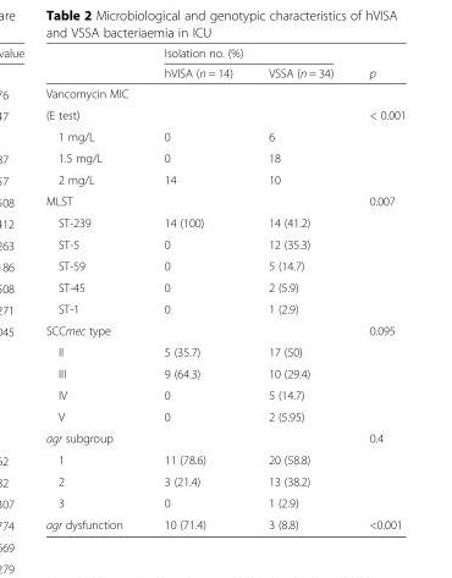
<table><thead><tr><td rowspan="2"></td><td colspan="2">Isolation no. (%)</td><td rowspan="2">p</td></tr><tr><td>hVISA (n = 14)</td><td>VSSA (n = 34)</td></tr></thead><tbody><tr><td colspan="4">Vancomycin MIC</td></tr><tr><td>(E test)</td><td></td><td></td><td>&lt; 0.001</td></tr><tr><td>1 mg/L</td><td>0</td><td>6</td><td></td></tr><tr><td>1.5 mg/L</td><td>0</td><td>18</td><td></td></tr><tr><td>2 mg/L</td><td>14</td><td>10</td><td></td></tr><tr><td>MLST</td><td></td><td></td><td>0.007</td></tr><tr><td>ST-239</td><td>14 (100)</td><td>14 (41.2)</td><td></td></tr><tr><td>ST-5</td><td>0</td><td>12 (35.3)</td><td></td></tr><tr><td>ST-59</td><td>0</td><td>5 (14.7)</td><td></td></tr><tr><td>ST-45</td><td>0</td><td>2 (5.9)</td><td></td></tr><tr><td>ST-1</td><td>0</td><td>1 (2.9)</td><td></td></tr><tr><td>SCCmec type</td><td></td><td></td><td>0.095</td></tr><tr><td>II</td><td>5 (35.7)</td><td>17 (50)</td><td></td></tr><tr><td>III</td><td>9 (64.3)</td><td>10 (29.4)</td><td></td></tr><tr><td>IV</td><td>0</td><td>5 (14.7)</td><td></td></tr><tr><td>V</td><td>0</td><td>2 (5.95)</td><td></td></tr><tr><td>agr subgroup</td><td></td><td></td><td>0.4</td></tr><tr><td>1</td><td>11 (78.6)</td><td>20 (58.8)</td><td></td></tr><tr><td>2</td><td>3 (21.4)</td><td>13 (38.2)</td><td></td></tr><tr><td>3</td><td>0</td><td>1 (2.9)</td><td></td></tr><tr><td>agr dysfunction</td><td>10 (71.4)</td><td>3 (8.8)</td><td>&lt;0.001</td></tr></tbody></table>